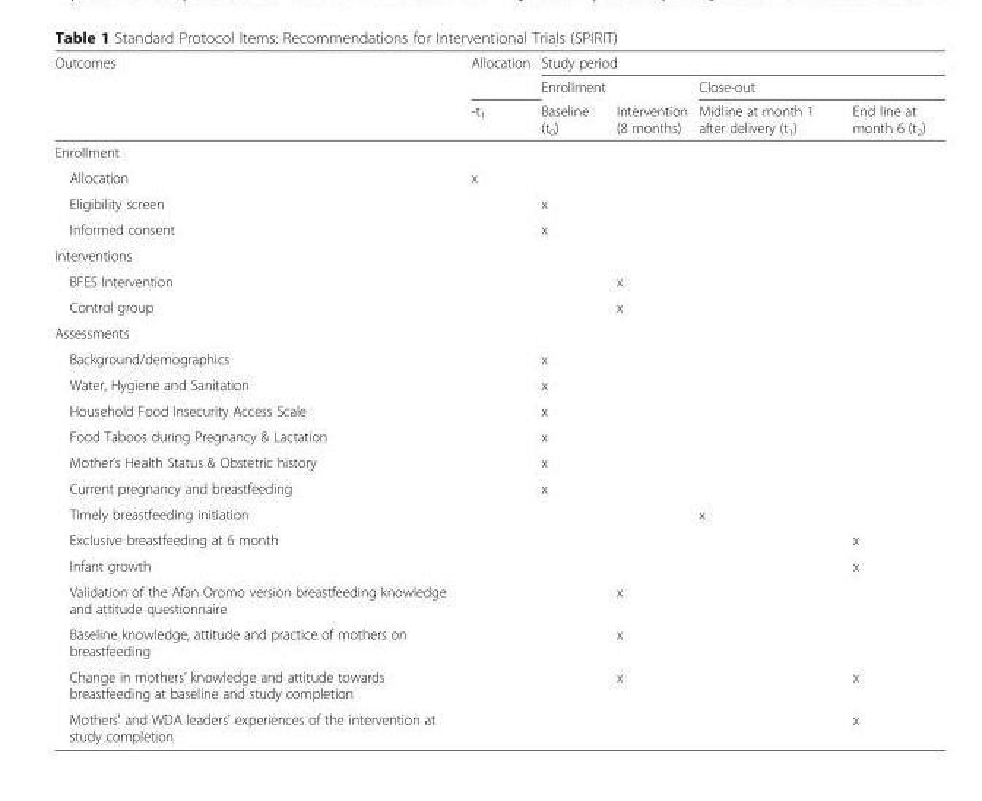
<table><thead><tr><td rowspan="3">Outcomes</td><td rowspan="3">Allocation -t1</td><td colspan="4">Study period</td></tr><tr><td rowspan="2">Enrollment Baseline (t0)</td><td rowspan="2">Intervention (8 months)</td><td colspan="2">Close-out</td></tr><tr><td>Midline at month 1 after delivery (t<sub>1</sub>)</td><td>End line at month 6 (t<sub>2</sub>)</td></tr></thead><tbody><tr><td colspan="6">Enrollment</td></tr><tr><td>Allocation</td><td>x</td><td></td><td></td><td></td><td></td></tr><tr><td>Eligibility screen</td><td></td><td>x</td><td></td><td></td><td></td></tr><tr><td>Informed consent</td><td></td><td>x</td><td></td><td></td><td></td></tr><tr><td colspan="6">Interventions</td></tr><tr><td>BFES Intervention</td><td></td><td></td><td>x</td><td></td><td></td></tr><tr><td>Control group</td><td></td><td></td><td>x</td><td></td><td></td></tr><tr><td colspan="6">Assessments</td></tr><tr><td>Background/demographics</td><td></td><td>x</td><td></td><td></td><td></td></tr><tr><td>Water, Hygiene and Sanitation</td><td></td><td>x</td><td></td><td></td><td></td></tr><tr><td>Household Food Insecurity Access Scale</td><td></td><td>x</td><td></td><td></td><td></td></tr><tr><td>Food Taboos during Pregnancy &amp; Lactation</td><td></td><td>x</td><td></td><td></td><td></td></tr><tr><td>Mother’s Health Status &amp; Obstetric history</td><td></td><td>x</td><td></td><td></td><td></td></tr><tr><td>Current pregnancy and breastfeeding</td><td></td><td>x</td><td></td><td></td><td></td></tr><tr><td>Timely breastfeeding initiation</td><td></td><td></td><td></td><td>x</td><td></td></tr><tr><td>Exclusive breastfeeding at 6 month</td><td></td><td></td><td></td><td></td><td>x</td></tr><tr><td>Infant growth</td><td></td><td></td><td></td><td></td><td>x</td></tr><tr><td>Validation of the Afan Oromo version breastfeeding knowledge and attitude questionnaire</td><td></td><td></td><td>x</td><td></td><td></td></tr><tr><td>Baseline knowledge, attitude and practice of mothers on breastfeeding</td><td></td><td></td><td>x</td><td></td><td></td></tr><tr><td>Change in mothers’ knowledge and attitude towards breastfeeding at baseline and study completion</td><td></td><td></td><td>x</td><td></td><td>x</td></tr><tr><td>Mothers&#x27; and WDA leaders&#x27; experiences of the intervention at study completion</td><td></td><td></td><td></td><td></td><td>x</td></tr></tbody></table>